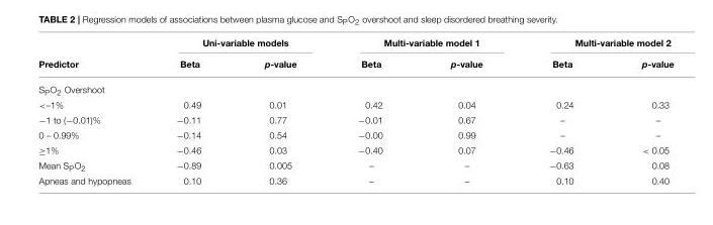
<table><thead><tr><td rowspan="2">Predictor</td><td colspan="2">Uni-variable models</td><td colspan="2">Multi-variable model 1</td><td colspan="2">Multi-variable model 2</td></tr><tr><td>Beta</td><td>p-value</td><td>Beta</td><td>p-value</td><td>Beta</td><td>p-value</td></tr></thead><tbody><tr><td colspan="7">S<sub>P</sub>O<sub>2</sub> Overshoot</td></tr><tr><td>&lt;–1%</td><td>0.49</td><td>0.01</td><td>0.42</td><td>0.04</td><td>0.24</td><td>0.33</td></tr><tr><td>−1 to (−0.01)%</td><td>−0.11</td><td>0.77</td><td>−0.01</td><td>0.67</td><td>–</td><td>–</td></tr><tr><td>0 – 0.99%</td><td>−0.14</td><td>0.54</td><td>−0.00</td><td>0.99</td><td>–</td><td>–</td></tr><tr><td>≥1%</td><td>−0.46</td><td>0.03</td><td>−0.40</td><td>0.07</td><td>−0.46</td><td>&lt; 0.05</td></tr><tr><td>Mean S<sub>P</sub>O<sub>2</sub></td><td>−0.89</td><td>0.005</td><td>–</td><td>–</td><td>−0.63</td><td>0.08</td></tr><tr><td>Apneas and hypopneas</td><td>0.10</td><td>0.36</td><td>–</td><td>–</td><td>0.10</td><td>0.40</td></tr></tbody></table>